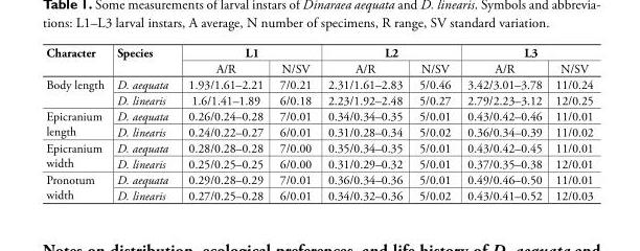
<table><tbody><tr><td rowspan="2">Character</td><td rowspan="2">Species</td><td colspan="2">L1</td><td colspan="2">L2</td><td colspan="2">L3</td></tr><tr><td>A/R</td><td>N/SV</td><td>A/R</td><td>N/SV</td><td>A/R</td><td>N/SV</td></tr><tr><td rowspan="2">Body length</td><td>D. aequata</td><td>1.93/1.61–2.21</td><td>7/0.21</td><td>2.31/1.61–2.83</td><td>5/0.46</td><td>3.42/3.01–3.78</td><td>11/0.24</td></tr><tr><td>D. linearis</td><td>1.6/1.41–1.89</td><td>6/0.18</td><td>2.23/1.92–2.48</td><td>5/0.27</td><td>2.79/2.23–3.12</td><td>12/0.25</td></tr><tr><td rowspan="2">Epicranium length</td><td>D. aequata</td><td>0.26/0.24–0.28</td><td>7/0.01</td><td>0.34/0.34–0.35</td><td>5/0.01</td><td>0.43/0.42–0.46</td><td>11/0.01</td></tr><tr><td>D. linearis</td><td>0.24/0.22–0.27</td><td>6/0.01</td><td>0.31/0.28–0.34</td><td>5/0.02</td><td>0.36/0.34–0.39</td><td>11/0.02</td></tr><tr><td rowspan="2">Epicranium width</td><td>D. aequata</td><td>0.28/0.28–0.28</td><td>7/0.00</td><td>0.35/0.34–0.35</td><td>5/0.01</td><td>0.43/0.42–0.45</td><td>11/0.01</td></tr><tr><td>D. linearis</td><td>0.25/0.25–0.25</td><td>6/0.00</td><td>0.31/0.29–0.32</td><td>5/0.01</td><td>0.37/0.35–0.38</td><td>12/0.01</td></tr><tr><td rowspan="2">Pronotum width</td><td>D. aequata</td><td>0.29/0.28–0.29</td><td>7/0.01</td><td>0.36/0.34–0.36</td><td>5/0.01</td><td>0.49/0.46–0.50</td><td>11/0.01</td></tr><tr><td>D. linearis</td><td>0.27/0.25–0.28</td><td>6/0.01</td><td>0.34/0.32–0.36</td><td>5/0.02</td><td>0.43/0.41–0.52</td><td>12/0.03</td></tr></tbody></table>